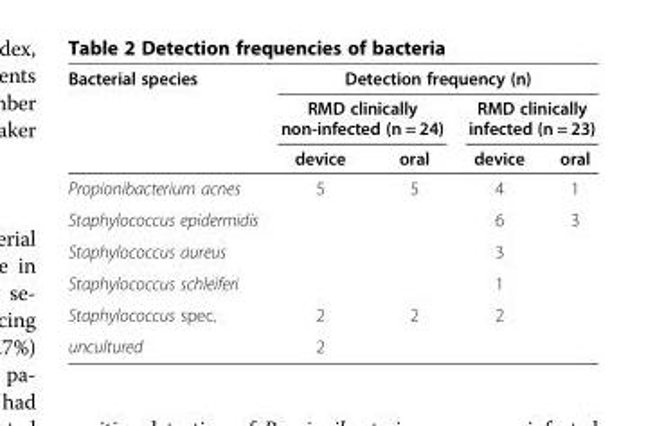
<table><thead><tr><td rowspan="3">Bacterial species</td><td colspan="4">Detection frequency (n)</td></tr><tr><td colspan="2">RMD clinically non-infected (n = 24)</td><td colspan="2">RMD clinically infected (n = 23)</td></tr><tr><td>device</td><td>oral</td><td>device</td><td>oral</td></tr></thead><tbody><tr><td>Propionibacterium acnes</td><td>5</td><td>5</td><td>4</td><td>1</td></tr><tr><td>Staphylococcus epidermidis</td><td></td><td></td><td>6</td><td>3</td></tr><tr><td>Staphylococcus aureus</td><td></td><td></td><td>3</td><td></td></tr><tr><td>Staphylococcus schleiferi</td><td></td><td></td><td>1</td><td></td></tr><tr><td>Staphylococcus spec.</td><td>2</td><td>2</td><td>2</td><td></td></tr><tr><td>uncultured</td><td>2</td><td></td><td></td><td></td></tr></tbody></table>